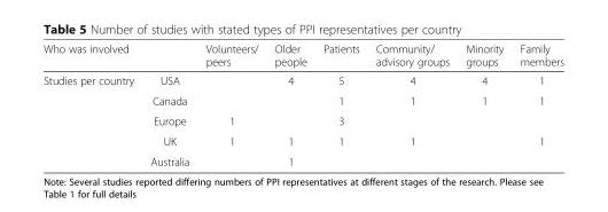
<table><thead><tr><td>Who was involved</td><td></td><td>Volunteers/ peers</td><td>Older people</td><td>Patients</td><td>Community/ advisory groups</td><td>Minority groups</td><td>Family members</td></tr></thead><tbody><tr><td rowspan="5">Studies per country</td><td>USA</td><td></td><td>4</td><td>5</td><td>4</td><td>4</td><td>1</td></tr><tr><td>Canada</td><td></td><td></td><td>1</td><td>1</td><td>1</td><td>1</td></tr><tr><td>Europe</td><td>1</td><td></td><td>3</td><td></td><td></td><td></td></tr><tr><td>UK</td><td>1</td><td>1</td><td>1</td><td>1</td><td></td><td>1</td></tr><tr><td>Australia</td><td></td><td>1</td><td></td><td></td><td></td><td></td></tr></tbody></table>